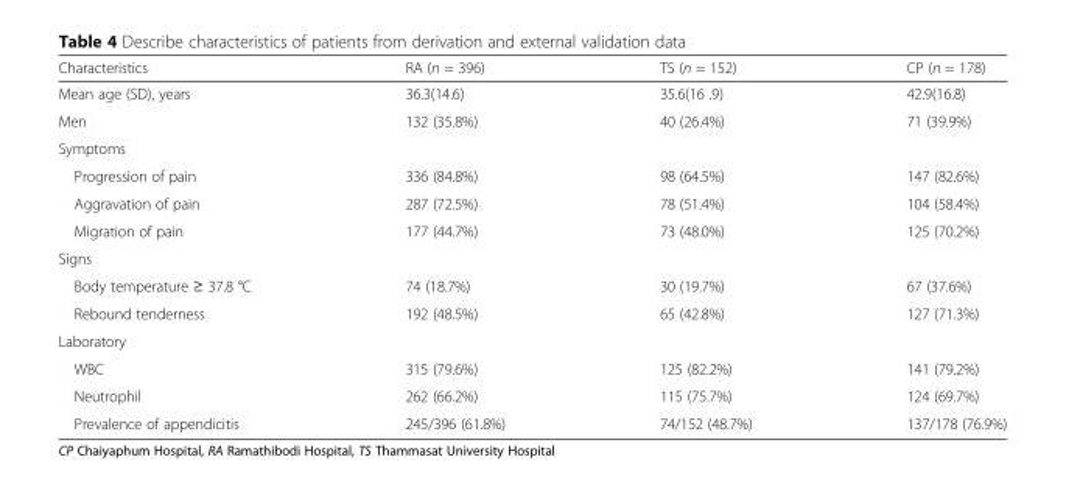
<table><thead><tr><td>Characteristics</td><td>RA (n = 396)</td><td>TS (n = 152)</td><td>CP (n = 178)</td></tr></thead><tbody><tr><td>Mean age (SD), years</td><td>36.3(14.6)</td><td>35.6(16 .9)</td><td>42.9(16.8)</td></tr><tr><td>Men</td><td>132 (35.8%)</td><td>40 (26.4%)</td><td>71 (39.9%)</td></tr><tr><td colspan="4">Symptoms</td></tr><tr><td>Progression of pain</td><td>336 (84.8%)</td><td>98 (64.5%)</td><td>147 (82.6%)</td></tr><tr><td>Aggravation of pain</td><td>287 (72.5%)</td><td>78 (51.4%)</td><td>104 (58.4%)</td></tr><tr><td>Migration of pain</td><td>177 (44.7%)</td><td>73 (48.0%)</td><td>125 (70.2%)</td></tr><tr><td colspan="4">Signs</td></tr><tr><td>Body temperature ≥ 37.8 °C</td><td>74 (18.7%)</td><td>30 (19.7%)</td><td>67 (37.6%)</td></tr><tr><td>Rebound tenderness</td><td>192 (48.5%)</td><td>65 (42.8%)</td><td>127 (71.3%)</td></tr><tr><td colspan="4">Laboratory</td></tr><tr><td>WBC</td><td>315 (79.6%)</td><td>125 (82.2%)</td><td>141 (79.2%)</td></tr><tr><td>Neutrophil</td><td>262 (66.2%)</td><td>115 (75.7%)</td><td>124 (69.7%)</td></tr><tr><td>Prevalence of appendicitis</td><td>245/396 (61.8%)</td><td>74/152 (48.7%)</td><td>137/178 (76.9%)</td></tr></tbody></table>